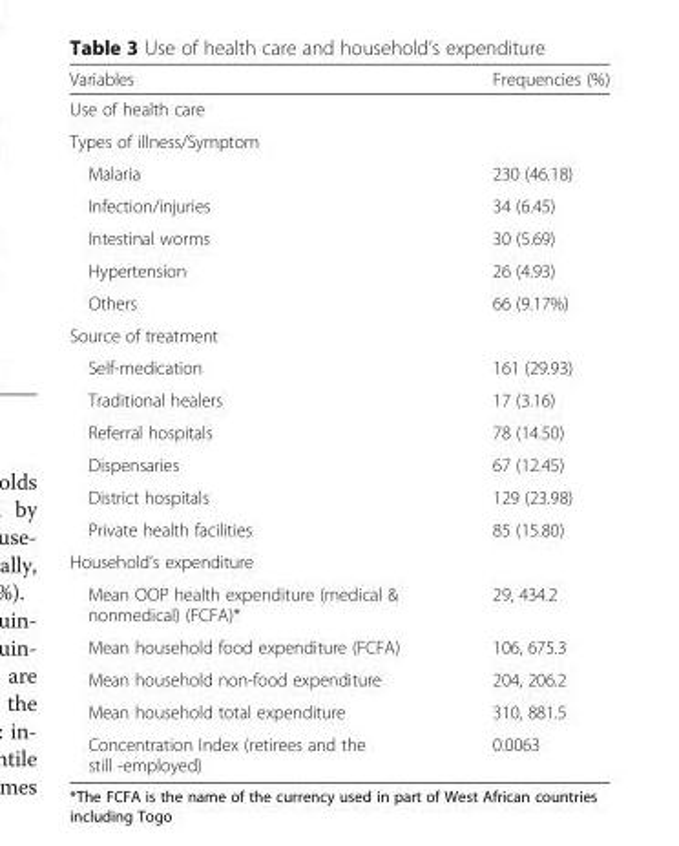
<table><thead><tr><td>Variables</td><td>Frequencies (%)</td></tr></thead><tbody><tr><td colspan="2">Use of health care</td></tr><tr><td colspan="2">Types of illness/Symptom</td></tr><tr><td>Malaria</td><td>230 (46.18)</td></tr><tr><td>Infection/injuries</td><td>34 (6.45)</td></tr><tr><td>Intestinal worms</td><td>30 (5.69)</td></tr><tr><td>Hypertension</td><td>26 (4.93)</td></tr><tr><td>Others</td><td>66 (9.17%)</td></tr><tr><td colspan="2">Source of treatment</td></tr><tr><td>Self-medication</td><td>161 (29.93)</td></tr><tr><td>Traditional healers</td><td>17 (3.16)</td></tr><tr><td>Referral hospitals</td><td>78 (14.50)</td></tr><tr><td>Dispensaries</td><td>67 (12.45)</td></tr><tr><td>District hospitals</td><td>129 (23.98)</td></tr><tr><td>Private health facilities</td><td>85 (15.80)</td></tr><tr><td colspan="2">Household’s expenditure</td></tr><tr><td>Mean OOP health expenditure (medical &amp; nonmedical) (FCFA)*</td><td>29, 434.2</td></tr><tr><td>Mean household food expenditure (FCFA)</td><td>106, 675.3</td></tr><tr><td>Mean household non-food expenditure</td><td>204, 206.2</td></tr><tr><td>Mean household total expenditure</td><td>310, 881.5</td></tr><tr><td>Concentration Index (retirees and the still -employed)</td><td>0.0063</td></tr></tbody></table>